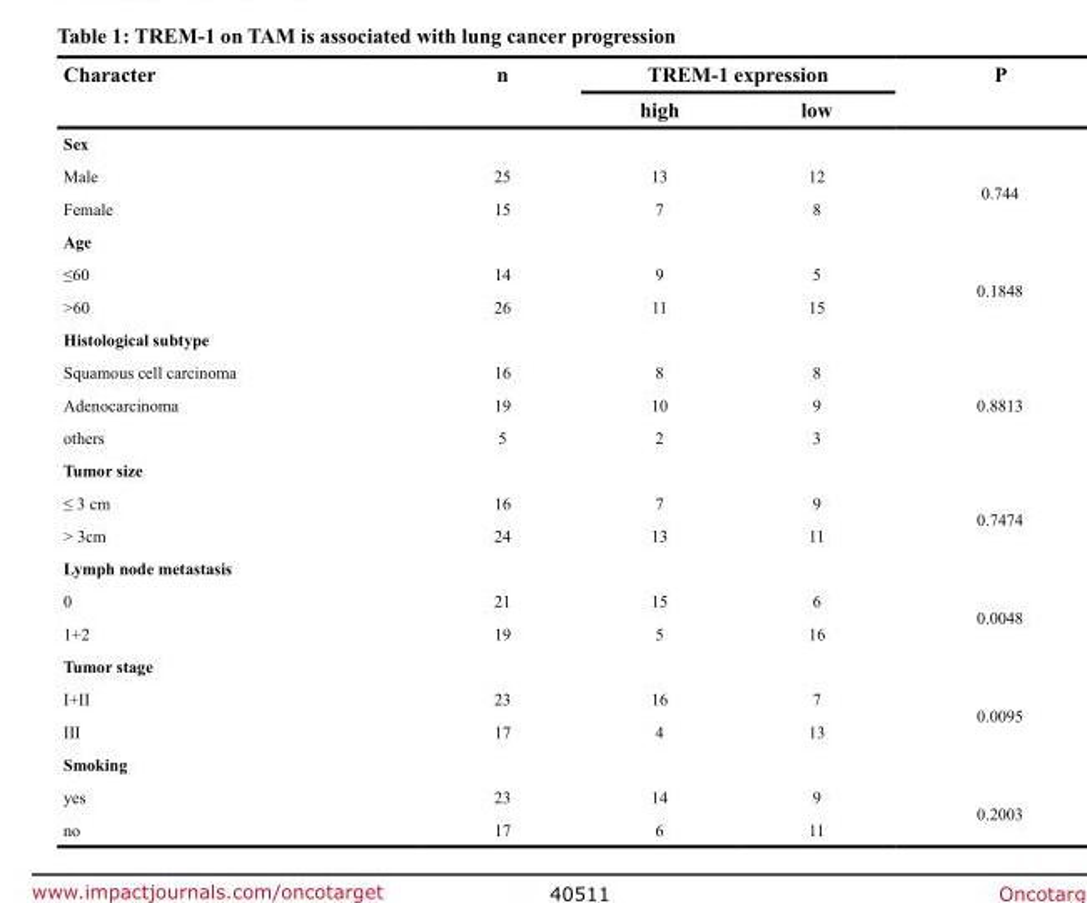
<table><thead><tr><td rowspan="2">Character</td><td rowspan="2">n</td><td colspan="2">TREM-1 expression</td><td rowspan="2">P</td></tr><tr><td>high</td><td>low</td></tr></thead><tbody><tr><td colspan="5">Sex</td></tr><tr><td>Male</td><td>25</td><td>13</td><td>12</td><td rowspan="2">0.744</td></tr><tr><td>Female</td><td>15</td><td>7</td><td>8</td></tr><tr><td colspan="5">Age</td></tr><tr><td>≤60</td><td>14</td><td>9</td><td>5</td><td rowspan="2">0.1848</td></tr><tr><td>&gt;60</td><td>26</td><td>11</td><td>15</td></tr><tr><td colspan="5">Histological subtype</td></tr><tr><td>Squamous cell carcinoma</td><td>16</td><td>8</td><td>8</td><td rowspan="3">0.8813</td></tr><tr><td>Adenocarcinoma</td><td>19</td><td>10</td><td>9</td></tr><tr><td>others</td><td>5</td><td>2</td><td>3</td></tr><tr><td colspan="5">Tumor size</td></tr><tr><td>≤ 3 cm</td><td>16</td><td>7</td><td>9</td><td rowspan="2">0.7474</td></tr><tr><td>&gt; 3cm</td><td>24</td><td>13</td><td>11</td></tr><tr><td colspan="5">Lymph node metastasis</td></tr><tr><td>0</td><td>21</td><td>15</td><td>6</td><td rowspan="2">0.0048</td></tr><tr><td>1+2</td><td>19</td><td>5</td><td>16</td></tr><tr><td colspan="5">Tumor stage</td></tr><tr><td>I+II</td><td>23</td><td>16</td><td>7</td><td rowspan="2">0.0095</td></tr><tr><td>III</td><td>17</td><td>4</td><td>13</td></tr><tr><td colspan="5">Smoking</td></tr><tr><td>yes</td><td>23</td><td>14</td><td>9</td><td rowspan="2">0.2003</td></tr><tr><td>no</td><td>17</td><td>6</td><td>11</td></tr></tbody></table>